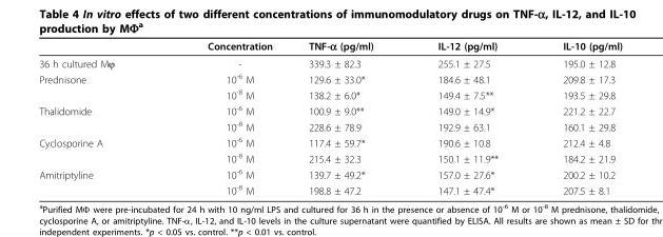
<table><thead><tr><td></td><td>Concentration</td><td>TNF-α (pg/ml)</td><td>IL-12 (pg/ml)</td><td>IL-10 (pg/ml)</td></tr></thead><tbody><tr><td>36 h cultured Mϕ</td><td>-</td><td>339.3 ± 82.3</td><td>255.1 ± 27.5</td><td>195.0 ± 12.8</td></tr><tr><td rowspan="2">Prednisone</td><td>10<sup>-6</sup> M</td><td>129.6 ± 33.0*</td><td>184.6 ± 48.1</td><td>209.8 ± 17.3</td></tr><tr><td>10<sup>-8</sup> M</td><td>138.2 ± 6.0*</td><td>149.4 ± 7.5**</td><td>193.5 ± 29.8</td></tr><tr><td rowspan="2">Thalidomide</td><td>10<sup>-6</sup> M</td><td>100.9 ± 9.0**</td><td>149.0 ± 14.9*</td><td>221.2 ± 22.7</td></tr><tr><td>10<sup>-8</sup> M</td><td>228.6 ± 78.9</td><td>192.9 ± 63.1</td><td>160.1 ± 29.8</td></tr><tr><td rowspan="2">Cyclosporine A</td><td>10<sup>-6</sup> M</td><td>117.4 ± 59.7*</td><td>190.6 ± 10.8</td><td>212.4 ± 4.8</td></tr><tr><td>10<sup>-8</sup> M</td><td>215.4 ± 32.3</td><td>150.1 ± 11.9**</td><td>184.2 ± 21.9</td></tr><tr><td rowspan="2">Amitriptyline</td><td>10<sup>-6</sup> M</td><td>139.7 ± 49.2*</td><td>157.0 ± 27.6*</td><td>200.2 ± 10.2</td></tr><tr><td>10<sup>-8</sup> M</td><td>198.8 ± 47.2</td><td>147.1 ± 47.4*</td><td>207.5 ± 8.1</td></tr></tbody></table>